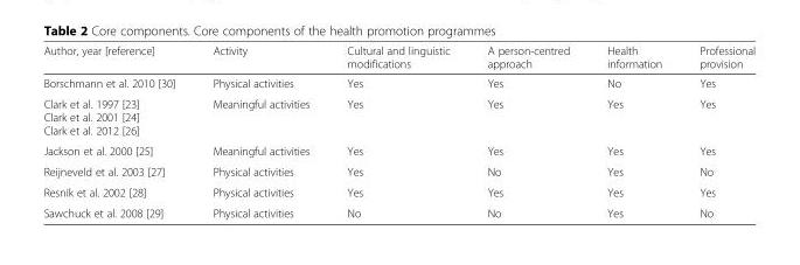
<table><thead><tr><td>Author, year [reference]</td><td>Activity</td><td>Cultural and linguistic modifications</td><td>A person-centred approach</td><td>Health information</td><td>Professional provision</td></tr></thead><tbody><tr><td>Borschmann et al. 2010 [30]</td><td>Physical activities</td><td>Yes</td><td>Yes</td><td>No</td><td>Yes</td></tr><tr><td>Clark et al. 1997 [23] Clark et al. 2001 [24] Clark et al. 2012 [26]</td><td>Meaningful activities</td><td>Yes</td><td>Yes</td><td>Yes</td><td>Yes</td></tr><tr><td>Jackson et al. 2000 [25]</td><td>Meaningful activities</td><td>Yes</td><td>Yes</td><td>Yes</td><td>Yes</td></tr><tr><td>Reijneveld et al. 2003 [27]</td><td>Physical activities</td><td>Yes</td><td>No</td><td>Yes</td><td>No</td></tr><tr><td>Resnik et al. 2002 [28]</td><td>Physical activities</td><td>Yes</td><td>Yes</td><td>Yes</td><td>Yes</td></tr><tr><td>Sawchuck et al. 2008 [29]</td><td>Physical activities</td><td>No</td><td>No</td><td>Yes</td><td>No</td></tr></tbody></table>